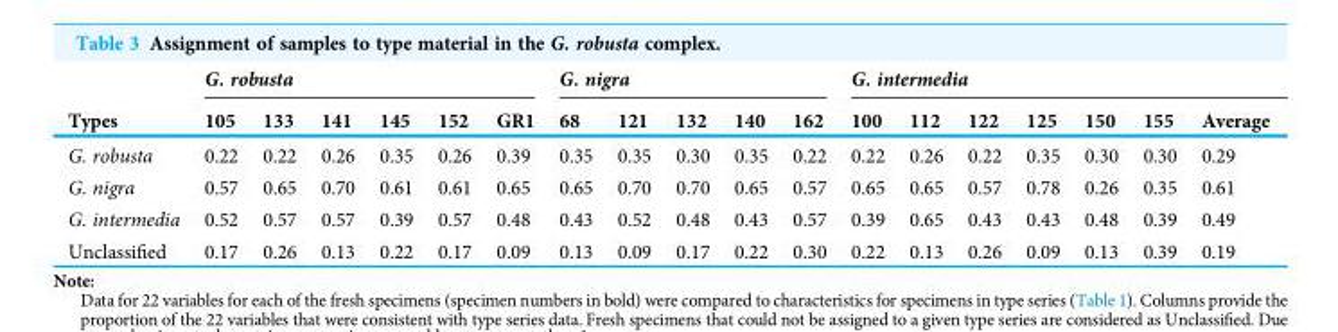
<table><thead><tr><td rowspan="2">Types</td><td colspan="6">G. robusta</td><td colspan="5">G. nigra</td><td colspan="7">G. intermedia</td></tr><tr><td>105</td><td>133</td><td>141</td><td>145</td><td>152</td><td>GR1</td><td>68</td><td>121</td><td>132</td><td>140</td><td>162</td><td>100</td><td>112</td><td>122</td><td>125</td><td>150</td><td>155</td><td>Average</td></tr></thead><tbody><tr><td>G. robusta</td><td>0.22</td><td>0.22</td><td>0.26</td><td>0.35</td><td>0.26</td><td>0.39</td><td>0.35</td><td>0.35</td><td>0.30</td><td>0.35</td><td>0.22</td><td>0.22</td><td>0.26</td><td>0.22</td><td>0.35</td><td>0.30</td><td>0.30</td><td>0.29</td></tr><tr><td>G. nigra</td><td>0.57</td><td>0.65</td><td>0.70</td><td>0.61</td><td>0.61</td><td>0.65</td><td>0.65</td><td>0.70</td><td>0.70</td><td>0.65</td><td>0.57</td><td>0.65</td><td>0.65</td><td>0.57</td><td>0.78</td><td>0.26</td><td>0.35</td><td>0.61</td></tr><tr><td>G. intermedia</td><td>0.52</td><td>0.57</td><td>0.57</td><td>0.39</td><td>0.57</td><td>0.48</td><td>0.43</td><td>0.52</td><td>0.48</td><td>0.43</td><td>0.57</td><td>0.39</td><td>0.65</td><td>0.43</td><td>0.43</td><td>0.48</td><td>0.39</td><td>0.49</td></tr><tr><td>Unclassified</td><td>0.17</td><td>0.26</td><td>0.13</td><td>0.22</td><td>0.17</td><td>0.09</td><td>0.13</td><td>0.09</td><td>0.17</td><td>0.22</td><td>0.30</td><td>0.22</td><td>0.13</td><td>0.26</td><td>0.09</td><td>0.13</td><td>0.39</td><td>0.19</td></tr></tbody></table>